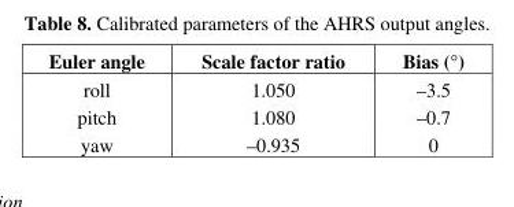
<table><thead><tr><td>Euler angle</td><td>Scale factor ratio</td><td>Bias (°)</td></tr></thead><tbody><tr><td>roll</td><td>1.050</td><td>–3.5</td></tr><tr><td>pitch</td><td>1.080</td><td>–0.7</td></tr><tr><td>yaw</td><td>–0.935</td><td>0</td></tr></tbody></table>